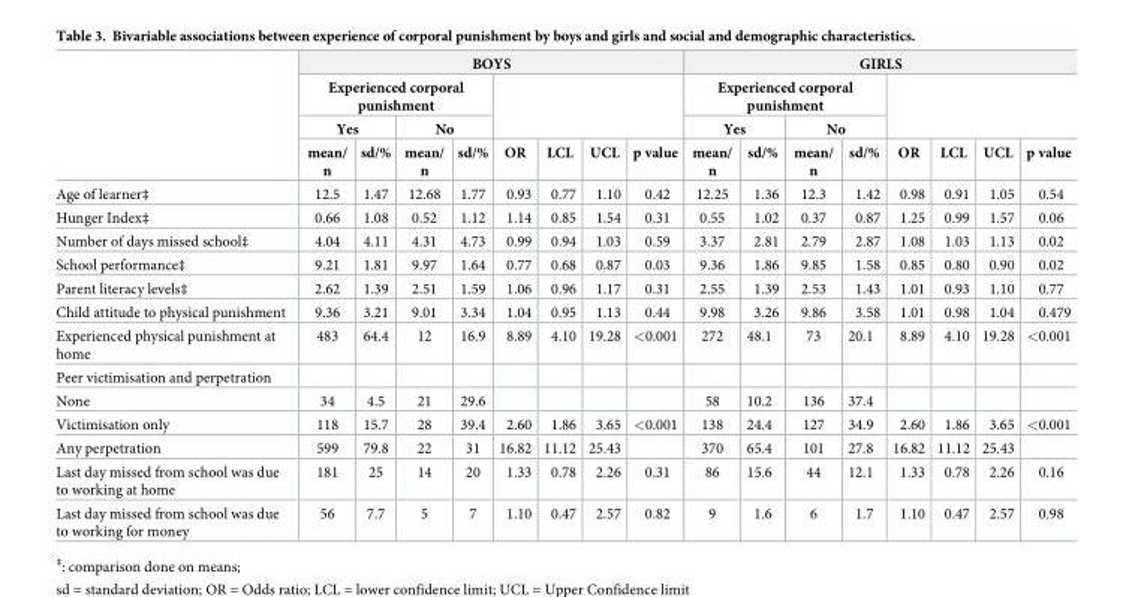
<table><thead><tr><td rowspan="4"></td><td colspan="8">BOYS</td><td colspan="8">GIRLS</td></tr><tr><td colspan="4">Experienced corporal punishment</td><td rowspan="3">OR</td><td rowspan="3">LCL</td><td rowspan="3">UCL</td><td rowspan="3">p value</td><td colspan="4">Experienced corporal punishment</td><td rowspan="3">OR</td><td rowspan="3">LCL</td><td rowspan="3">UCL</td><td rowspan="3">p value</td></tr><tr><td colspan="2">Yes</td><td colspan="2">No</td><td colspan="2">Yes</td><td colspan="2">No</td></tr><tr><td>mean/ n</td><td>sd/%</td><td>mean/ n</td><td>sd/%</td><td>mean/ n</td><td>sd/%</td><td>mean/ n</td><td>sd/%</td></tr></thead><tbody><tr><td>Age of learner‡</td><td>12.5</td><td>1.47</td><td>12.68</td><td>1.77</td><td>0.93</td><td>0.77</td><td>1.10</td><td>0.42</td><td>12.25</td><td>1.36</td><td>12.3</td><td>1.42</td><td>0.98</td><td>0.91</td><td>1.05</td><td>0.54</td></tr><tr><td>Hunger Index‡</td><td>0.66</td><td>1.08</td><td>0.52</td><td>1.12</td><td>1.14</td><td>0.85</td><td>1.54</td><td>0.31</td><td>0.55</td><td>1.02</td><td>0.37</td><td>0.87</td><td>1.25</td><td>0.99</td><td>1.57</td><td>0.06</td></tr><tr><td>Number of days missed school‡</td><td>4.04</td><td>4.11</td><td>4.31</td><td>4.73</td><td>0.99</td><td>0.94</td><td>1.03</td><td>0.59</td><td>3.37</td><td>2.81</td><td>2.79</td><td>2.87</td><td>1.08</td><td>1.03</td><td>1.13</td><td>0.02</td></tr><tr><td>School performance‡</td><td>9.21</td><td>1.81</td><td>9.97</td><td>1.64</td><td>0.77</td><td>0.68</td><td>0.87</td><td>0.03</td><td>9.36</td><td>1.86</td><td>9.85</td><td>1.58</td><td>0.85</td><td>0.80</td><td>0.90</td><td>0.02</td></tr><tr><td>Parent literacy levels‡</td><td>2.62</td><td>1.39</td><td>2.51</td><td>1.59</td><td>1.06</td><td>0.96</td><td>1.17</td><td>0.31</td><td>2.55</td><td>1.39</td><td>2.53</td><td>1.43</td><td>1.01</td><td>0.93</td><td>1.10</td><td>0.77</td></tr><tr><td>Child attitude to physical punishment</td><td>9.36</td><td>3.21</td><td>9.01</td><td>3.34</td><td>1.04</td><td>0.95</td><td>1.13</td><td>0.44</td><td>9.98</td><td>3.26</td><td>9.86</td><td>3.58</td><td>1.01</td><td>0.98</td><td>1.04</td><td>0.479</td></tr><tr><td>Experienced physical punishment at home</td><td>483</td><td>64.4</td><td>12</td><td>16.9</td><td>8.89</td><td>4.10</td><td>19.28</td><td>&lt;0.001</td><td>272</td><td>48.1</td><td>73</td><td>20.1</td><td>8.89</td><td>4.10</td><td>19.28</td><td>&lt;0.001</td></tr><tr><td colspan="17">Peer victimisation and perpetration</td></tr><tr><td>None</td><td>34</td><td>4.5</td><td>21</td><td>29.6</td><td></td><td></td><td></td><td></td><td>58</td><td>10.2</td><td>136</td><td>37.4</td><td></td><td></td><td></td><td></td></tr><tr><td>Victimisation only</td><td>118</td><td>15.7</td><td>28</td><td>39.4</td><td>2.60</td><td>1.86</td><td>3.65</td><td>&lt;0.001</td><td>138</td><td>24.4</td><td>127</td><td>34.9</td><td>2.60</td><td>1.86</td><td>3.65</td><td>&lt;0.001</td></tr><tr><td>Any perpetration</td><td>599</td><td>79.8</td><td>22</td><td>31</td><td>16.82</td><td>11.12</td><td>25.43</td><td></td><td>370</td><td>65.4</td><td>101</td><td>27.8</td><td>16.82</td><td>11.12</td><td>25.43</td><td></td></tr><tr><td>Last day missed from school was due to working at home</td><td>181</td><td>25</td><td>14</td><td>20</td><td>1.33</td><td>0.78</td><td>2.26</td><td>0.31</td><td>86</td><td>15.6</td><td>44</td><td>12.1</td><td>1.33</td><td>0.78</td><td>2.26</td><td>0.16</td></tr><tr><td>Last day missed from school was due to working for money</td><td>56</td><td>7.7</td><td>5</td><td>7</td><td>1.10</td><td>0.47</td><td>2.57</td><td>0.82</td><td>9</td><td>1.6</td><td>6</td><td>1.7</td><td>1.10</td><td>0.47</td><td>2.57</td><td>0.98</td></tr></tbody></table>